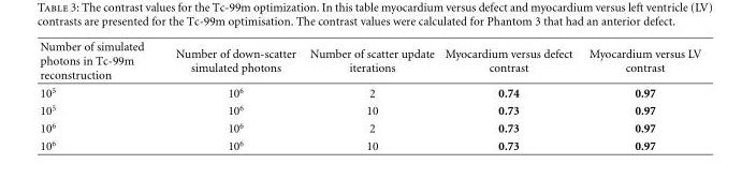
<table><thead><tr><td>Number of simulated photons in Tc-99m reconstruction</td><td>Number of down-scatter simulated photons</td><td>Number of scatter update iterations</td><td>Myocardium versus defect contrast</td><td>Myocardium versus LV contrast</td></tr></thead><tbody><tr><td>10<sup>5</sup></td><td>10<sup>6</sup></td><td>2</td><td>0.74</td><td>0.97</td></tr><tr><td>10<sup>5</sup></td><td>10<sup>6</sup></td><td>10</td><td>0.73</td><td>0.97</td></tr><tr><td>10<sup>6</sup></td><td>10<sup>6</sup></td><td>2</td><td>0.73</td><td>0.97</td></tr><tr><td>10<sup>6</sup></td><td>10<sup>6</sup></td><td>10</td><td>0.73</td><td>0.97</td></tr></tbody></table>